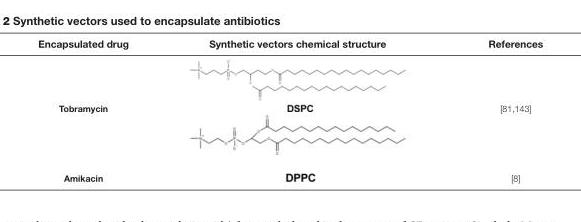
<table><thead><tr><td>Encapsulated drug</td><td>Synthetic vectors chemical structure</td><td>References</td></tr></thead><tbody><tr><td>Tobramycin</td><td></td><td>[81,143]</td></tr><tr><td>Amikacin</td><td></td><td>[8]</td></tr></tbody></table>